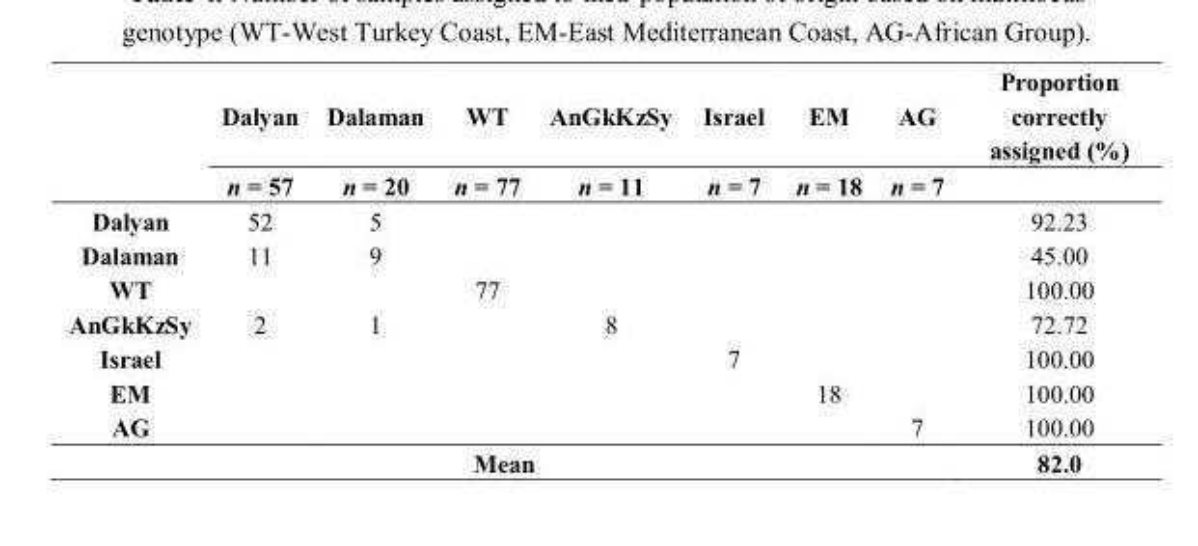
<table><thead><tr><td rowspan="2"></td><td rowspan="2">Dalyan n = 57</td><td rowspan="2">Dalaman n = 20</td><td rowspan="2">WT n = 77</td><td rowspan="2">AnGkKzSy n = 11</td><td rowspan="2">Israel n = 7</td><td rowspan="2">EM n = 18</td><td rowspan="2">AG n = 7</td><td rowspan="2">Proportion correctly assigned (%)</td></tr><tr></tr></thead><tbody><tr><td>Dalyan</td><td>52</td><td>5</td><td></td><td></td><td></td><td></td><td></td><td>92.23</td></tr><tr><td>Dalaman</td><td>11</td><td>9</td><td></td><td></td><td></td><td></td><td></td><td>45.00</td></tr><tr><td>WT</td><td></td><td></td><td>77</td><td></td><td></td><td></td><td></td><td>100.00</td></tr><tr><td>AnGkKzSy</td><td>2</td><td>1</td><td></td><td>8</td><td></td><td></td><td></td><td>72.72</td></tr><tr><td>Israel</td><td></td><td></td><td></td><td></td><td>7</td><td></td><td></td><td>100.00</td></tr><tr><td>EM</td><td></td><td></td><td></td><td></td><td></td><td>18</td><td></td><td>100.00</td></tr><tr><td>AG</td><td></td><td></td><td></td><td></td><td></td><td></td><td>7</td><td>100.00</td></tr><tr><td colspan="8">Mean</td><td>82.0</td></tr></tbody></table>